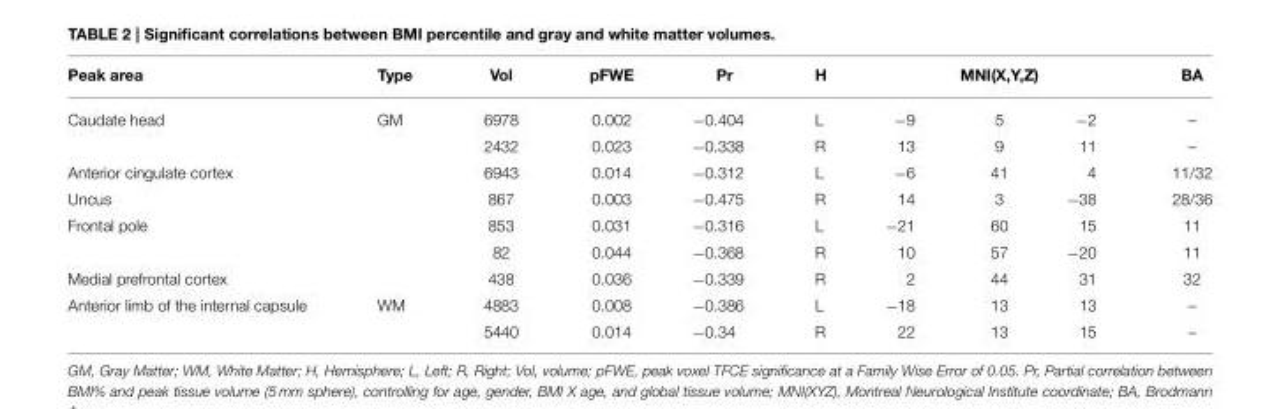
<table><thead><tr><td rowspan="2">Peak area Caudate head</td><td rowspan="2">Type GM</td><td rowspan="2">Vol 6978</td><td rowspan="2">pFWE 0.002</td><td rowspan="2">Pr −0.404</td><td rowspan="2">H L</td><td colspan="3">MNI(X,Y,Z)</td><td rowspan="2">BA –</td></tr><tr><td>−9</td><td>5</td><td>−2</td></tr></thead><tbody><tr><td></td><td></td><td>2432</td><td>0.023</td><td>−0.338</td><td>R</td><td>13</td><td>9</td><td>11</td><td>–</td></tr><tr><td>Anterior cingulate cortex</td><td></td><td>6943</td><td>0.014</td><td>−0.312</td><td>L</td><td>−6</td><td>41</td><td>4</td><td>11/32</td></tr><tr><td>Uncus</td><td></td><td>867</td><td>0.003</td><td>−0.475</td><td>R</td><td>14</td><td>3</td><td>−38</td><td>28/36</td></tr><tr><td rowspan="2">Frontal pole</td><td></td><td>853</td><td>0.031</td><td>−0.316</td><td>L</td><td>−21</td><td>60</td><td>15</td><td>11</td></tr><tr><td></td><td>82</td><td>0.044</td><td>−0.368</td><td>R</td><td>10</td><td>57</td><td>−20</td><td>11</td></tr><tr><td>Medial prefrontal cortex</td><td></td><td>438</td><td>0.036</td><td>−0.339</td><td>R</td><td>2</td><td>44</td><td>31</td><td>32</td></tr><tr><td rowspan="2">Anterior limb of the internal capsule</td><td>WM</td><td>4883</td><td>0.008</td><td>−0.386</td><td>L</td><td>−18</td><td>13</td><td>13</td><td>–</td></tr><tr><td></td><td>5440</td><td>0.014</td><td>−0.34</td><td>R</td><td>22</td><td>13</td><td>15</td><td>–</td></tr></tbody></table>